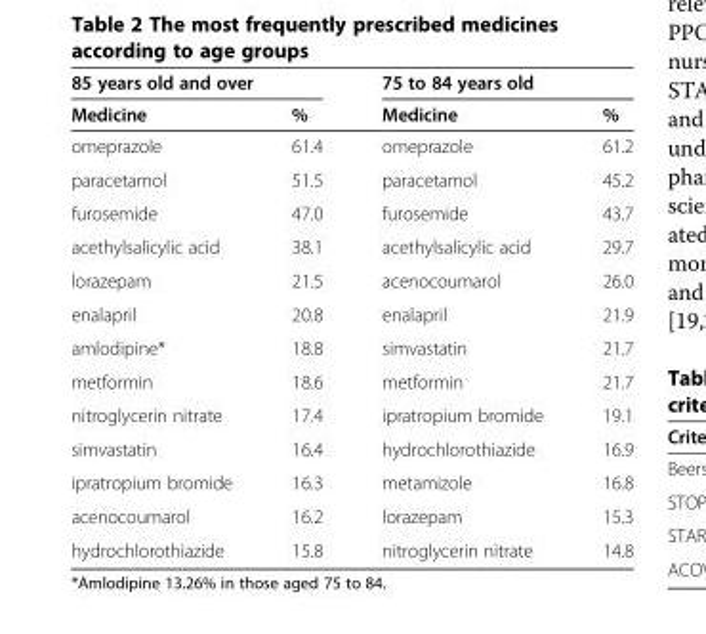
<table><thead><tr><td colspan="2">85 years old and over</td><td colspan="2">75 to 84 years old</td></tr><tr><td>Medicine</td><td>%</td><td>Medicine</td><td>%</td></tr></thead><tbody><tr><td>omeprazole</td><td>61.4</td><td>omeprazole</td><td>61.2</td></tr><tr><td>paracetamol</td><td>51.5</td><td>paracetamol</td><td>45.2</td></tr><tr><td>furosemide</td><td>47.0</td><td>furosemide</td><td>43.7</td></tr><tr><td>acethylsalicylic acid</td><td>38.1</td><td>acethylsalicylic acid</td><td>29.7</td></tr><tr><td>lorazepam</td><td>21.5</td><td>acenocoumarol</td><td>26.0</td></tr><tr><td>enalapril</td><td>20.8</td><td>enalapril</td><td>21.9</td></tr><tr><td>amlodipine*</td><td>18.8</td><td>simvastatin</td><td>21.7</td></tr><tr><td>metformin</td><td>18.6</td><td>metformin</td><td>21.7</td></tr><tr><td>nitroglycerin nitrate</td><td>17.4</td><td>ipratropium bromide</td><td>19.1</td></tr><tr><td>simvastatin</td><td>16.4</td><td>hydrochlorothiazide</td><td>16.9</td></tr><tr><td>ipratropium bromide</td><td>16.3</td><td>metamizole</td><td>16.8</td></tr><tr><td>acenocoumarol</td><td>16.2</td><td>lorazepam</td><td>15.3</td></tr><tr><td>hydrochlorothiazide</td><td>15.8</td><td>nitroglycerin nitrate</td><td>14.8</td></tr></tbody></table>